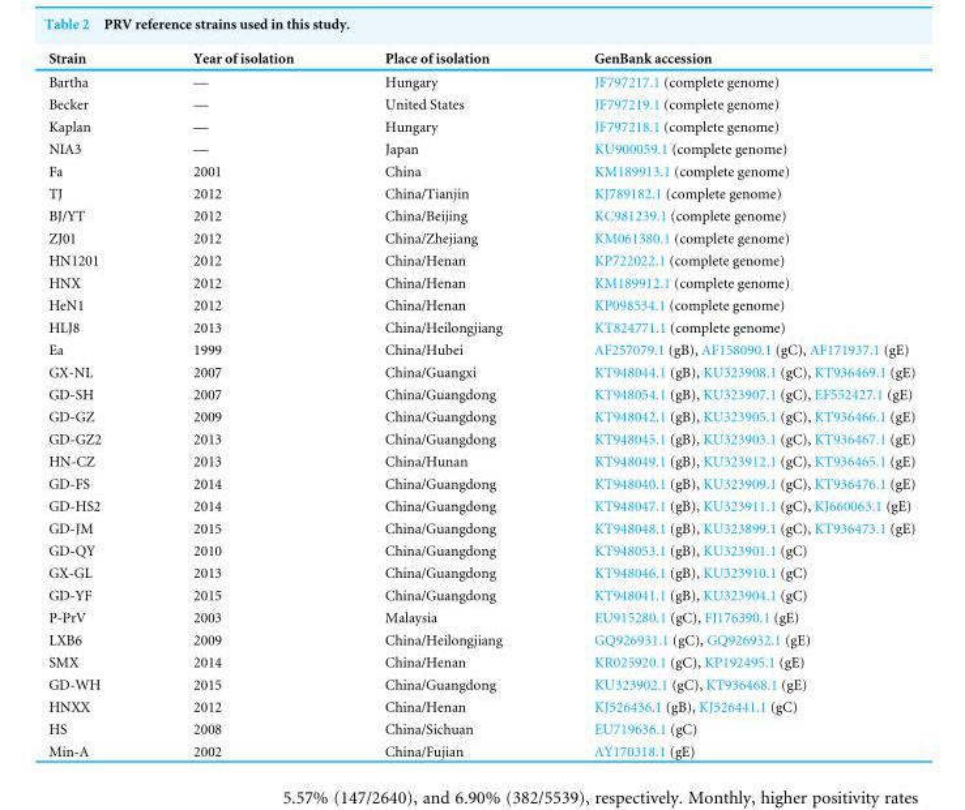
<table><thead><tr><td>Strain</td><td>Year of isolation</td><td>Place of isolation</td><td>GenBank accession</td></tr></thead><tbody><tr><td>Bartha</td><td>—</td><td>Hungary</td><td>JF797217.1 (complete genome)</td></tr><tr><td>Becker</td><td>—</td><td>United States</td><td>JF797219.1 (complete genome)</td></tr><tr><td>Kaplan</td><td>—</td><td>Hungary</td><td>JF797218.1 (complete genome)</td></tr><tr><td>NIA3</td><td>—</td><td>Japan</td><td>KU900059.1 (complete genome)</td></tr><tr><td>Fa</td><td>2001</td><td>China</td><td>KM189913.1 (complete genome)</td></tr><tr><td>TJ</td><td>2012</td><td>China/Tianjin</td><td>KJ789182.1 (complete genome)</td></tr><tr><td>BJ/YT</td><td>2012</td><td>China/Beijing</td><td>KC981239.1 (complete genome)</td></tr><tr><td>ZJ01</td><td>2012</td><td>China/Zhejiang</td><td>KM061380.1 (complete genome)</td></tr><tr><td>HN1201</td><td>2012</td><td>China/Henan</td><td>KP722022.1 (complete genome)</td></tr><tr><td>HNX</td><td>2012</td><td>China/Henan</td><td>KM189912.1 (complete genome)</td></tr><tr><td>HeN1</td><td>2012</td><td>China/Henan</td><td>KP098534.1 (complete genome)</td></tr><tr><td>HLJ8</td><td>2013</td><td>China/Heilongjiang</td><td>KT824771.1 (complete genome)</td></tr><tr><td>Ea</td><td>1999</td><td>China/Hubei</td><td>AF257079.1 (gB), AF158090.1 (gC), AF171937.1 (gE)</td></tr><tr><td>GX-NL</td><td>2007</td><td>China/Guangxi</td><td>KT948044.1 (gB), KU323908.1 (gC), KT936469.1 (gE)</td></tr><tr><td>GD-SH</td><td>2007</td><td>China/Guangdong</td><td>KT948054.1 (gB), KU323907.1 (gC), EF552427.1 (gE)</td></tr><tr><td>GD-GZ</td><td>2009</td><td>China/Guangdong</td><td>KT948042.1 (gB), KU323905.1 (gC), KT936466.1 (gE)</td></tr><tr><td>GD-GZ2</td><td>2013</td><td>China/Guangdong</td><td>KT948045.1 (gB), KU323903.1 (gC), KT936467.1 (gE)</td></tr><tr><td>HN-CZ</td><td>2013</td><td>China/Hunan</td><td>KT948049.1 (gB), KU323912.1 (gC), KT936465.1 (gE)</td></tr><tr><td>GD-FS</td><td>2014</td><td>China/Guangdong</td><td>KT948040.1 (gB), KU323909.1 (gC), KT936476.1 (gE)</td></tr><tr><td>GD-HS2</td><td>2014</td><td>China/Guangdong</td><td>KT948047.1 (gB), KU323911.1 (gC), KJ660063.1 (gE)</td></tr><tr><td>GD-JM</td><td>2015</td><td>China/Guangdong</td><td>KT948048.1 (gB), KU323899.1 (gC), KT936473.1 (gE)</td></tr><tr><td>GD-QY</td><td>2010</td><td>China/Guangdong</td><td>KT948053.1 (gB), KU323901.1 (gC)</td></tr><tr><td>GX-GL</td><td>2013</td><td>China/Guangdong</td><td>KT948046.1 (gB), KU323910.1 (gC)</td></tr><tr><td>GD-YF</td><td>2015</td><td>China/Guangdong</td><td>KT948041.1 (gB), KU323904.1 (gC)</td></tr><tr><td>P-PrV</td><td>2003</td><td>Malaysia</td><td>EU915280.1 (gC), FJ176390.1 (gE)</td></tr><tr><td>LXB6</td><td>2009</td><td>China/Heilongjiang</td><td>GQ926931.1 (gC), GQ926932.1 (gE)</td></tr><tr><td>SMX</td><td>2014</td><td>China/Henan</td><td>KR025920.1 (gC), KP192495.1 (gE)</td></tr><tr><td>GD-WH</td><td>2015</td><td>China/Guangdong</td><td>KU323902.1 (gC), KT936468.1 (gE)</td></tr><tr><td>HNXX</td><td>2012</td><td>China/Henan</td><td>KJ526436.1 (gB), KJ526441.1 (gC)</td></tr><tr><td>HS</td><td>2008</td><td>China/Sichuan</td><td>EU719636.1 (gC)</td></tr><tr><td>Min-A</td><td>2002</td><td>China/Fujian</td><td>AY170318.1 (gE)</td></tr></tbody></table>